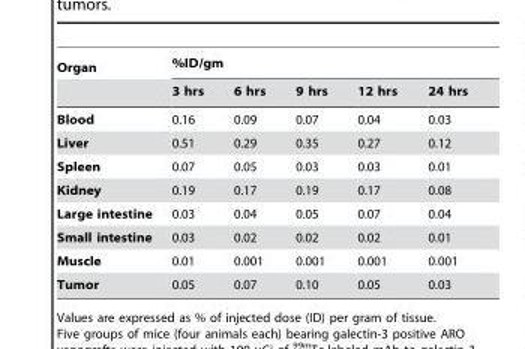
<table><thead><tr><td rowspan="2">Organ</td><td colspan="5">%ID/gm</td></tr><tr><td>3 hrs</td><td>6 hrs</td><td>9 hrs</td><td>12 hrs</td><td>24 hrs</td></tr></thead><tbody><tr><td>Blood</td><td>0.16</td><td>0.09</td><td>0.07</td><td>0.04</td><td>0.03</td></tr><tr><td>Liver</td><td>0.51</td><td>0.29</td><td>0.35</td><td>0.27</td><td>0.12</td></tr><tr><td>Spleen</td><td>0.07</td><td>0.05</td><td>0.03</td><td>0.03</td><td>0.01</td></tr><tr><td>Kidney</td><td>0.19</td><td>0.17</td><td>0.19</td><td>0.17</td><td>0.08</td></tr><tr><td>Large intestine</td><td>0.03</td><td>0.04</td><td>0.05</td><td>0.07</td><td>0.04</td></tr><tr><td>Small intestine</td><td>0.03</td><td>0.02</td><td>0.02</td><td>0.02</td><td>0.01</td></tr><tr><td>Muscle</td><td>0.01</td><td>0.001</td><td>0.001</td><td>0.001</td><td>0.001</td></tr><tr><td>Tumor</td><td>0.05</td><td>0.07</td><td>0.10</td><td>0.05</td><td>0.03</td></tr></tbody></table>